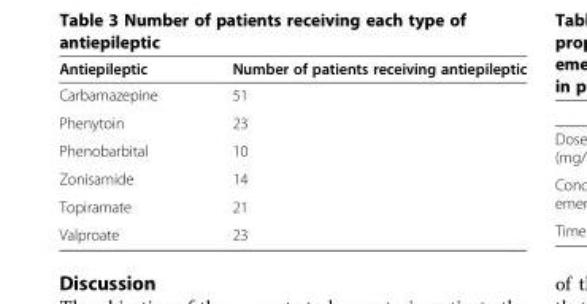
<table><thead><tr><td>Antiepileptic</td><td>Number of patients receiving antiepileptic</td></tr></thead><tbody><tr><td>Carbamazepine</td><td>51</td></tr><tr><td>Phenytoin</td><td>23</td></tr><tr><td>Phenobarbital</td><td>10</td></tr><tr><td>Zonisamide</td><td>14</td></tr><tr><td>Topiramate</td><td>21</td></tr><tr><td>Valproate</td><td>23</td></tr></tbody></table>